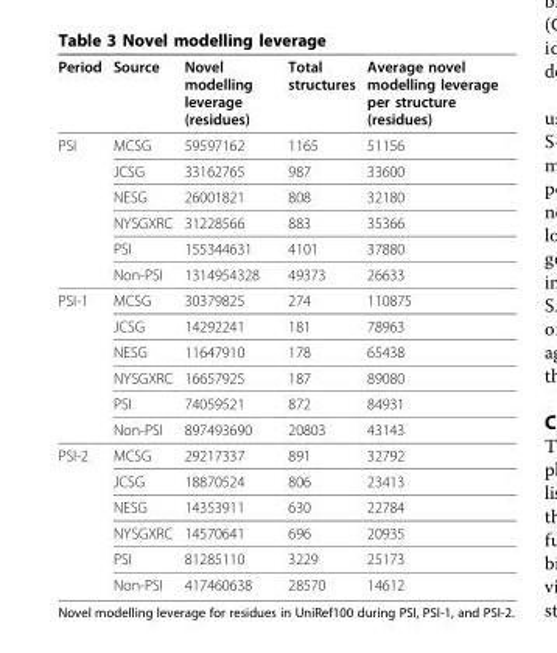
<table><thead><tr><td>Period</td><td>Source</td><td>Novel modelling leverage (residues)</td><td>Total structures</td><td>Average novel modelling leverage per structure (residues)</td></tr></thead><tbody><tr><td rowspan="6">PSI</td><td>MCSG</td><td>59597162</td><td>1165</td><td>51156</td></tr><tr><td>JCSG</td><td>33162765</td><td>987</td><td>33600</td></tr><tr><td>NESG</td><td>26001821</td><td>808</td><td>32180</td></tr><tr><td>NYSGXRC</td><td>31228566</td><td>883</td><td>35366</td></tr><tr><td>PSI</td><td>155344631</td><td>4101</td><td>37880</td></tr><tr><td>Non-PSI</td><td>1314954328</td><td>49373</td><td>26633</td></tr><tr><td rowspan="6">PSI-1</td><td>MCSG</td><td>30379825</td><td>274</td><td>110875</td></tr><tr><td>JCSG</td><td>14292241</td><td>181</td><td>78963</td></tr><tr><td>NESG</td><td>11647910</td><td>178</td><td>65438</td></tr><tr><td>NYSGXRC</td><td>16657925</td><td>187</td><td>89080</td></tr><tr><td>PSI</td><td>74059521</td><td>872</td><td>84931</td></tr><tr><td>Non-PSI</td><td>897493690</td><td>20803</td><td>43143</td></tr><tr><td rowspan="6">PSI-2</td><td>MCSG</td><td>29217337</td><td>891</td><td>32792</td></tr><tr><td>JCSG</td><td>18870524</td><td>806</td><td>23413</td></tr><tr><td>NESG</td><td>14353911</td><td>630</td><td>22784</td></tr><tr><td>NYSGXRC</td><td>14570641</td><td>696</td><td>20935</td></tr><tr><td>PSI</td><td>81285110</td><td>3229</td><td>25173</td></tr><tr><td>Non-PSI</td><td>417460638</td><td>28570</td><td>14612</td></tr></tbody></table>